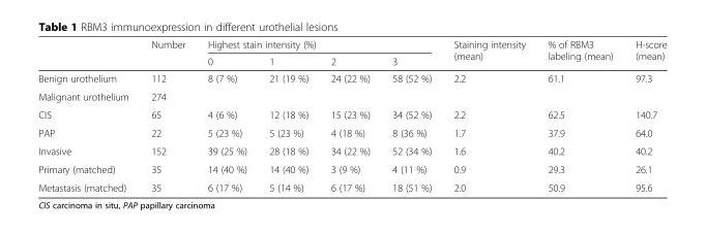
<table><thead><tr><td rowspan="2"></td><td rowspan="2">Number</td><td colspan="4">Highest stain intensity (%)</td><td rowspan="2">Staining intensity (mean)</td><td rowspan="2">% of RBM3 labeling (mean)</td><td rowspan="2">H-score (mean)</td></tr><tr><td>0</td><td>1</td><td>2</td><td>3</td></tr></thead><tbody><tr><td>Benign urothelium</td><td>112</td><td>8 (7 %)</td><td>21 (19 %)</td><td>24 (22 %)</td><td>58 (52 %)</td><td>2.2</td><td>61.1</td><td>97.3</td></tr><tr><td>Malignant urothelium</td><td>274</td><td colspan="7"></td></tr><tr><td>CIS</td><td>65</td><td>4 (6 %)</td><td>12 (18 %)</td><td>15 (23 %)</td><td>34 (52 %)</td><td>2.2</td><td>62.5</td><td>140.7</td></tr><tr><td>PAP</td><td>22</td><td>5 (23 %)</td><td>5 (23 %)</td><td>4 (18 %)</td><td>8 (36 %)</td><td>1.7</td><td>37.9</td><td>64.0</td></tr><tr><td>Invasive</td><td>152</td><td>39 (25 %)</td><td>28 (18 %)</td><td>34 (22 %)</td><td>52 (34 %)</td><td>1.6</td><td>40.2</td><td>40.2</td></tr><tr><td>Primary (matched)</td><td>35</td><td>14 (40 %)</td><td>14 (40 %)</td><td>3 (9 %)</td><td>4 (11 %)</td><td>0.9</td><td>29.3</td><td>26.1</td></tr><tr><td>Metastasis (matched)</td><td>35</td><td>6 (17 %)</td><td>5 (14 %)</td><td>6 (17 %)</td><td>18 (51 %)</td><td>2.0</td><td>50.9</td><td>95.6</td></tr></tbody></table>